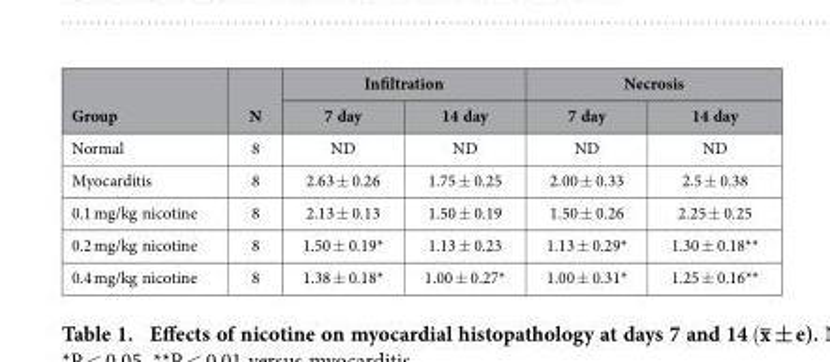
<table><thead><tr><td rowspan="2">Group</td><td rowspan="2">N</td><td colspan="2">Infiltration</td><td colspan="2">Necrosis</td></tr><tr><td>7 day</td><td>14 day</td><td>7 day</td><td>14 day</td></tr></thead><tbody><tr><td>Normal</td><td>8</td><td>ND</td><td>ND</td><td>ND</td><td>ND</td></tr><tr><td>Myocarditis</td><td>8</td><td>2.63 ± 0.26</td><td>1.75 ± 0.25</td><td>2.00 ± 0.33</td><td>2.5 ± 0.38</td></tr><tr><td>0.1 mg/kg nicotine</td><td>8</td><td>2.13 ± 0.13</td><td>1.50 ± 0.19</td><td>1.50 ± 0.26</td><td>2.25 ± 0.25</td></tr><tr><td>0.2 mg/kg nicotine</td><td>8</td><td>1.50 ± 0.19*</td><td>1.13 ± 0.23</td><td>1.13 ± 0.29*</td><td>1.30 ± 0.18**</td></tr><tr><td>0.4 mg/kg nicotine</td><td>8</td><td>1.38 ± 0.18*</td><td>1.00 ± 0.27*</td><td>1.00 ± 0.31*</td><td>1.25 ± 0.16**</td></tr></tbody></table>